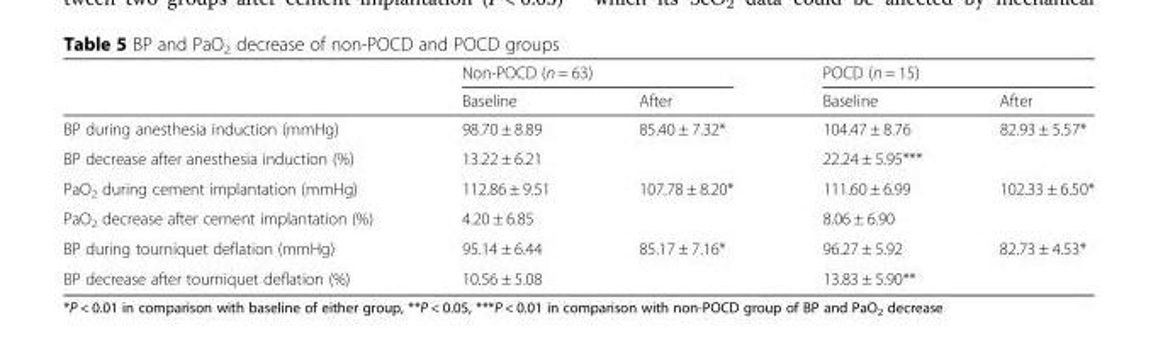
<table><thead><tr><td rowspan="2"></td><td colspan="2">Non-POCD (n = 63)</td><td colspan="2">POCD (n = 15)</td></tr><tr><td>Baseline</td><td>After</td><td>Baseline</td><td>After</td></tr></thead><tbody><tr><td>BP during anesthesia induction (mmHg)</td><td>98.70 ± 8.89</td><td>85.40 ± 7.32*</td><td>104.47 ± 8.76</td><td>82.93 ± 5.57*</td></tr><tr><td>BP decrease after anesthesia induction (%)</td><td colspan="2">13.22 ± 6.21</td><td colspan="2">22.24 ± 5.95***</td></tr><tr><td>PaO<sub>2</sub> during cement implantation (mmHg)</td><td>112.86 ± 9.51</td><td>107.78 ± 8.20*</td><td>111.60 ± 6.99</td><td>102.33 ± 6.50*</td></tr><tr><td>PaO<sub>2</sub> decrease after cement implantation (%)</td><td colspan="2">4.20 ± 6.85</td><td colspan="2">8.06 ± 6.90</td></tr><tr><td>BP during tourniquet deflation (mmHg)</td><td>95.14 ± 6.44</td><td>85.17 ± 7.16*</td><td>96.27 ± 5.92</td><td>82.73 ± 4.53*</td></tr><tr><td>BP decrease after tourniquet deflation (%)</td><td colspan="2">10.56 ± 5.08</td><td colspan="2">13.83 ± 5.90**</td></tr></tbody></table>